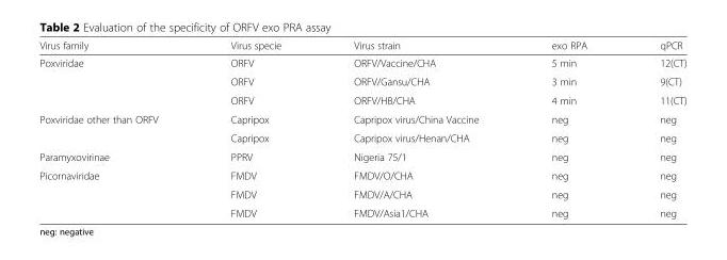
<table><thead><tr><td>Virus family</td><td>Virus specie</td><td>Virus strain</td><td>exo RPA</td><td>qPCR</td></tr></thead><tbody><tr><td rowspan="3">Poxviridae</td><td>ORFV</td><td>ORFV/Vaccine/CHA</td><td>5 min</td><td>12(CT)</td></tr><tr><td>ORFV</td><td>ORFV/Gansu/CHA</td><td>3 min</td><td>9(CT)</td></tr><tr><td>ORFV</td><td>ORFV/HB/CHA</td><td>4 min</td><td>11(CT)</td></tr><tr><td rowspan="2">Poxviridae other than ORFV</td><td>Capripox</td><td>Capripox virus/China Vaccine</td><td>neg</td><td>neg</td></tr><tr><td>Capripox</td><td>Capripox virus/Henan/CHA</td><td>neg</td><td>neg</td></tr><tr><td>Paramyxovirinae</td><td>PPRV</td><td>Nigeria 75/1</td><td>neg</td><td>neg</td></tr><tr><td rowspan="3">Picornaviridae</td><td>FMDV</td><td>FMDV/O/CHA</td><td>neg</td><td>neg</td></tr><tr><td>FMDV</td><td>FMDV/A/CHA</td><td>neg</td><td>neg</td></tr><tr><td>FMDV</td><td>FMDV/Asia1/CHA</td><td>neg</td><td>neg</td></tr></tbody></table>